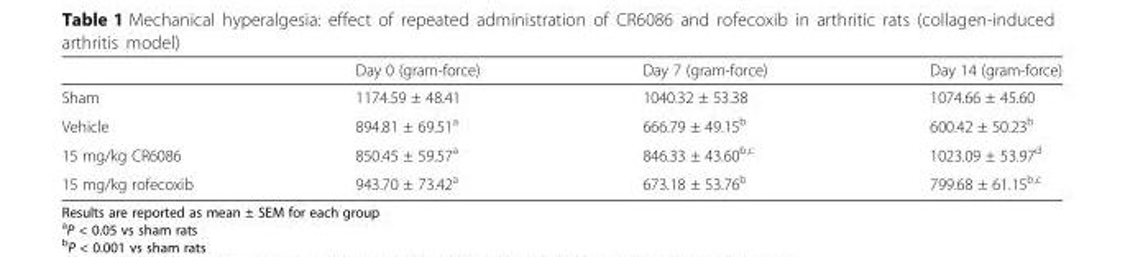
<table><thead><tr><td></td><td>Day 0 (gram-force)</td><td>Day 7 (gram-force)</td><td>Day 14 (gram-force)</td></tr></thead><tbody><tr><td>Sham</td><td>1174.59 ± 48.41</td><td>1040.32 ± 53.38</td><td>1074.66 ± 45.60</td></tr><tr><td>Vehicle</td><td>894.81 ± 69.51<sup>a</sup></td><td>666.79 ± 49.15<sup>b</sup></td><td>600.42 ± 50.23<sup>b</sup></td></tr><tr><td>15 mg/kg CR6086</td><td>850.45 ± 59.57<sup>a</sup></td><td>846.33 ± 43.60<sup>b,c</sup></td><td>1023.09 ± 53.97<sup>d</sup></td></tr><tr><td>15 mg/kg rofecoxib</td><td>943.70 ± 73.42<sup>a</sup></td><td>673.18 ± 53.76<sup>b</sup></td><td>799.68 ± 61.15<sup>b,c</sup></td></tr></tbody></table>